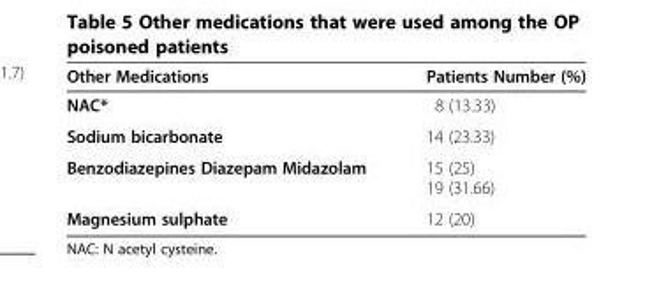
<table><thead><tr><td>Other Medications</td><td>Patients Number (%)</td></tr></thead><tbody><tr><td>NAC*</td><td>8 (13.33)</td></tr><tr><td>Sodium bicarbonate</td><td>14 (23.33)</td></tr><tr><td>Benzodiazepines Diazepam Midazolam</td><td>15 (25) 19 (31.66)</td></tr><tr><td>Magnesium sulphate</td><td>12 (20)</td></tr></tbody></table>